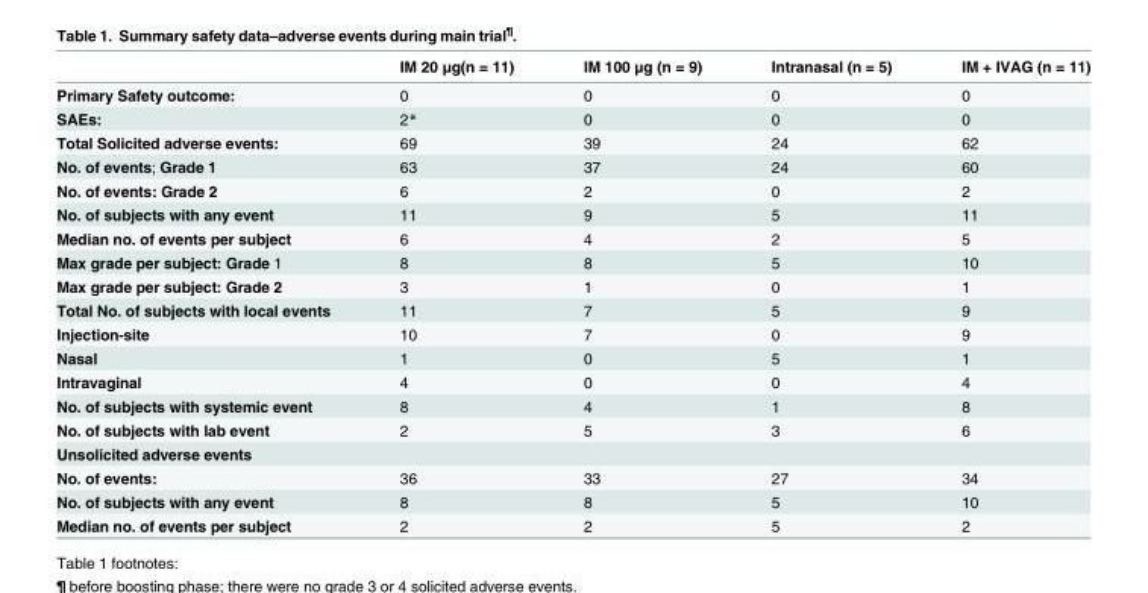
<table><thead><tr><td></td><td>IM 20 μg(n = 11)</td><td>IM 100 μg (n = 9)</td><td>Intranasal (n = 5)</td><td>IM + IVAG (n = 11)</td></tr></thead><tbody><tr><td>Primary Safety outcome:</td><td>0</td><td>0</td><td>0</td><td>0</td></tr><tr><td>SAEs:</td><td>2*</td><td>0</td><td>0</td><td>0</td></tr><tr><td>Total Solicited adverse events:</td><td>69</td><td>39</td><td>24</td><td>62</td></tr><tr><td>No. of events; Grade 1</td><td>63</td><td>37</td><td>24</td><td>60</td></tr><tr><td>No. of events: Grade 2</td><td>6</td><td>2</td><td>0</td><td>2</td></tr><tr><td>No. of subjects with any event</td><td>11</td><td>9</td><td>5</td><td>11</td></tr><tr><td>Median no. of events per subject</td><td>6</td><td>4</td><td>2</td><td>5</td></tr><tr><td>Max grade per subject: Grade 1</td><td>8</td><td>8</td><td>5</td><td>10</td></tr><tr><td>Max grade per subject: Grade 2</td><td>3</td><td>1</td><td>0</td><td>1</td></tr><tr><td>Total No. of subjects with local events</td><td>11</td><td>7</td><td>5</td><td>9</td></tr><tr><td>Injection-site</td><td>10</td><td>7</td><td>0</td><td>9</td></tr><tr><td>Nasal</td><td>1</td><td>0</td><td>5</td><td>1</td></tr><tr><td>Intravaginal</td><td>4</td><td>0</td><td>0</td><td>4</td></tr><tr><td>No. of subjects with systemic event</td><td>8</td><td>4</td><td>1</td><td>8</td></tr><tr><td>No. of subjects with lab event</td><td>2</td><td>5</td><td>3</td><td>6</td></tr><tr><td colspan="5">Unsolicited adverse events</td></tr><tr><td>No. of events:</td><td>36</td><td>33</td><td>27</td><td>34</td></tr><tr><td>No. of subjects with any event</td><td>8</td><td>8</td><td>5</td><td>10</td></tr><tr><td>Median no. of events per subject</td><td>2</td><td>2</td><td>5</td><td>2</td></tr></tbody></table>